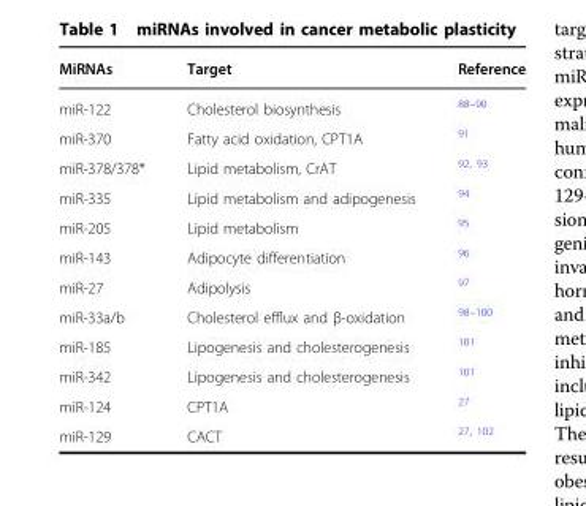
<table><thead><tr><td>MiRNAs</td><td>Target</td><td>Reference</td></tr></thead><tbody><tr><td>miR-122</td><td>Cholesterol biosynthesis</td><td><sup>88–90</sup></td></tr><tr><td>miR-370</td><td>Fatty acid oxidation, CPT1A</td><td><sup>91</sup></td></tr><tr><td>miR-378/378*</td><td>Lipid metabolism, CrAT</td><td><sup>92, 93</sup></td></tr><tr><td>miR-335</td><td>Lipid metabolism and adipogenesis</td><td><sup>94</sup></td></tr><tr><td>miR-205</td><td>Lipid metabolism</td><td><sup>95</sup></td></tr><tr><td>miR-143</td><td>Adipocyte differentiation</td><td><sup>96</sup></td></tr><tr><td>miR-27</td><td>Adipolysis</td><td><sup>97</sup></td></tr><tr><td>miR-33a/b</td><td>Cholesterol efflux and β-oxidation</td><td><sup>98–100</sup></td></tr><tr><td>miR-185</td><td>Lipogenesis and cholesterogenesis</td><td><sup>101</sup></td></tr><tr><td>miR-342</td><td>Lipogenesis and cholesterogenesis</td><td><sup>101</sup></td></tr><tr><td>miR-124</td><td>CPT1A</td><td><sup>27</sup></td></tr><tr><td>miR-129</td><td>CACT</td><td><sup>27, 102</sup></td></tr></tbody></table>